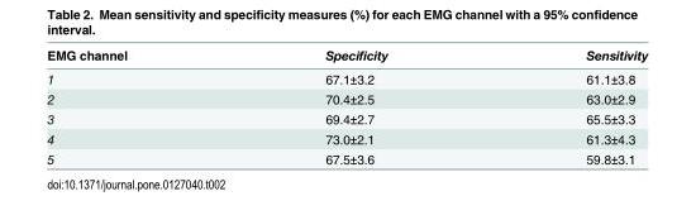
<table><thead><tr><td>EMG channel</td><td>Specificity</td><td>Sensitivity</td></tr></thead><tbody><tr><td>1</td><td>67.1±3.2</td><td>61.1±3.8</td></tr><tr><td>2</td><td>70.4±2.5</td><td>63.0±2.9</td></tr><tr><td>3</td><td>69.4±2.7</td><td>65.5±3.3</td></tr><tr><td>4</td><td>73.0±2.1</td><td>61.3±4.3</td></tr><tr><td>5</td><td>67.5±3.6</td><td>59.8±3.1</td></tr></tbody></table>